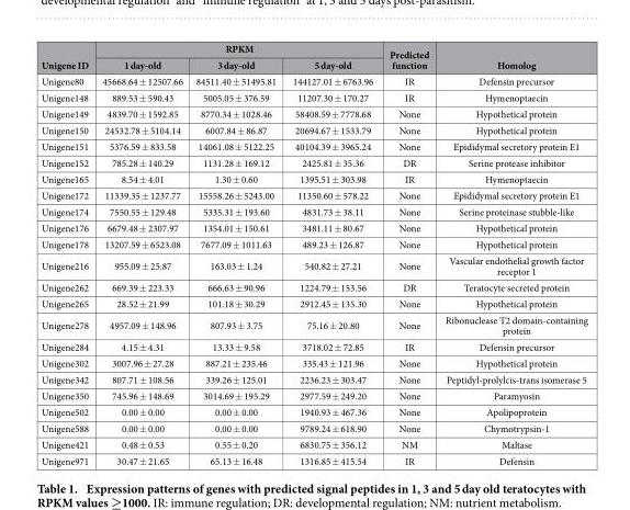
<table><thead><tr><td rowspan="2">Unigene ID</td><td colspan="3">RPKM</td><td rowspan="2">Predicted function</td><td rowspan="2">Homolog</td></tr><tr><td>1 day-old</td><td>3 day-old</td><td>5 day-old</td></tr></thead><tbody><tr><td>Unigene80</td><td>45668.64 ± 12507.66</td><td>84511.40 ± 51495.81</td><td>144127.01 ± 6763.96</td><td>IR</td><td>Defensin precursor</td></tr><tr><td>Unigene148</td><td>889.53 ± 590.43</td><td>5005.05 ± 376.59</td><td>11207.30 ± 170.27</td><td>IR</td><td>Hymenoptaecin</td></tr><tr><td>Unigene149</td><td>4839.70 ± 1592.85</td><td>8770.34 ± 1028.46</td><td>58408.59 ± 7778.68</td><td>None</td><td>Hypothetical protein</td></tr><tr><td>Unigene150</td><td>24532.78 ± 5104.14</td><td>6007.84 ± 86.87</td><td>20694.67 ± 1533.79</td><td>None</td><td>Hypothetical protein</td></tr><tr><td>Unigene151</td><td>5376.59 ± 833.58</td><td>14061.08 ± 5122.25</td><td>40104.39 ± 3965.24</td><td>None</td><td>Epididymal secretory protein E1</td></tr><tr><td>Unigene152</td><td>785.28 ± 140.29</td><td>1131.28 ± 169.12</td><td>2425.81 ± 35.36</td><td>DR</td><td>Serine protease inhibitor</td></tr><tr><td>Unigene165</td><td>8.54 ± 4.01</td><td>1.30 ± 0.60</td><td>1395.51 ± 303.98</td><td>IR</td><td>Hymenoptaecin</td></tr><tr><td>Unigene172</td><td>11339.35 ± 1237.77</td><td>15558.26 ± 5243.00</td><td>11350.60 ± 578.22</td><td>None</td><td>Epididymal secretory protein E1</td></tr><tr><td>Unigene174</td><td>7550.55 ± 129.48</td><td>5335.31 ± 193.60</td><td>4831.73 ± 38.11</td><td>None</td><td>Serine proteinase stubble-like</td></tr><tr><td>Unigene176</td><td>6679.48 ± 2307.97</td><td>1354.01 ± 150.61</td><td>3481.11 ± 80.67</td><td>None</td><td>Hypothetical protein</td></tr><tr><td>Unigene178</td><td>13207.59 ± 6523.08</td><td>7677.09 ± 1011.63</td><td>489.23 ± 126.87</td><td>None</td><td>Hypothetical protein</td></tr><tr><td>Unigene216</td><td>955.09 ± 25.87</td><td>163.03 ± 1.24</td><td>540.82 ± 27.21</td><td>None</td><td>Vascular endothelial growth factor receptor 1</td></tr><tr><td>Unigene262</td><td>669.39 ± 223.33</td><td>666.63 ± 90.96</td><td>1224.79 ± 153.56</td><td>DR</td><td>Teratocyte secreted protein</td></tr><tr><td>Unigene265</td><td>28.52 ± 21.99</td><td>101.18 ± 30.29</td><td>2912.45 ± 135.30</td><td>None</td><td>Hypothetical protein</td></tr><tr><td>Unigene278</td><td>4957.09 ± 148.96</td><td>807.93 ± 3.75</td><td>75.16 ± 20.80</td><td>None</td><td>Ribonuclease T2 domain-containing protein</td></tr><tr><td>Unigene284</td><td>4.15 ± 4.31</td><td>13.33 ± 9.58</td><td>3718.02 ± 72.85</td><td>IR</td><td>Defensin precursor</td></tr><tr><td>Unigene302</td><td>3007.96 ± 27.28</td><td>887.21 ± 235.46</td><td>335.43 ± 121.96</td><td>None</td><td>Hypothetical protein</td></tr><tr><td>Unigene342</td><td>807.71 ± 108.56</td><td>339.26 ± 125.01</td><td>2236.23 ± 303.47</td><td>None</td><td>Peptidyl-prolylcis-trans isomerase 5</td></tr><tr><td>Unigene350</td><td>745.96 ± 148.69</td><td>3014.69 ± 195.29</td><td>2977.59 ± 249.20</td><td>None</td><td>Paramyosin</td></tr><tr><td>Unigene502</td><td>0.00 ± 0.00</td><td>0.00 ± 0.00</td><td>1940.93 ± 467.36</td><td>None</td><td>Apolipoprotein</td></tr><tr><td>Unigene588</td><td>0.00 ± 0.00</td><td>0.00 ± 0.00</td><td>9789.24 ± 618.90</td><td>None</td><td>Chymotrypsin-1</td></tr><tr><td>Unigene421</td><td>0.48 ± 0.53</td><td>0.55 ± 0.20</td><td>6830.75 ± 356.12</td><td>NM</td><td>Maltase</td></tr><tr><td>Unigene971</td><td>30.47 ± 21.65</td><td>65.13 ± 16.48</td><td>1316.85 ± 415.54</td><td>IR</td><td>Defensin</td></tr></tbody></table>